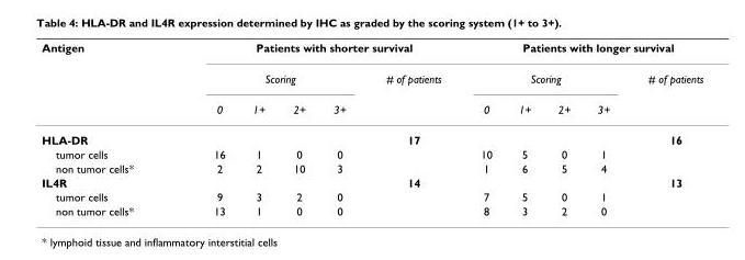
<table><thead><tr><td rowspan="3">Antigen</td><td colspan="5">Patients with shorter survival</td><td colspan="5">Patients with longer survival</td></tr><tr><td colspan="4">Scoring</td><td rowspan="2"># of patients</td><td colspan="4">Scoring</td><td rowspan="2"># of patients</td></tr><tr><td>0</td><td>1+</td><td>2+</td><td>3+</td><td>0</td><td>1+</td><td>2+</td><td>3+</td></tr></thead><tbody><tr><td>HLA-DR</td><td></td><td></td><td></td><td></td><td>17</td><td></td><td></td><td></td><td></td><td>16</td></tr><tr><td>tumor cells</td><td>16</td><td>1</td><td>0</td><td>0</td><td></td><td>10</td><td>5</td><td>0</td><td>1</td><td></td></tr><tr><td>non tumor cells*</td><td>2</td><td>2</td><td>10</td><td>3</td><td></td><td>1</td><td>6</td><td>5</td><td>4</td><td></td></tr><tr><td>IL4R</td><td></td><td></td><td></td><td></td><td>14</td><td></td><td></td><td></td><td></td><td>13</td></tr><tr><td>tumor cells</td><td>9</td><td>3</td><td>2</td><td>0</td><td></td><td>7</td><td>5</td><td>0</td><td>1</td><td></td></tr><tr><td>non tumor cells*</td><td>13</td><td>1</td><td>0</td><td>0</td><td></td><td>8</td><td>3</td><td>2</td><td>0</td><td></td></tr></tbody></table>